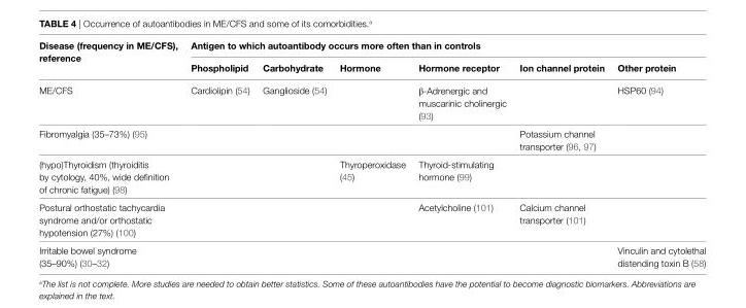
<table><thead><tr><td rowspan="2">disease (frequency in Me/CFs), reference</td><td colspan="6">antigen to which autoantibody occurs more often than in controls</td></tr><tr><td>phospholipid</td><td>Carbohydrate</td><td>Hormone</td><td>Hormone receptor</td><td>ion channel protein</td><td>other protein</td></tr></thead><tbody><tr><td>ME/CFS</td><td>Cardiolipin (54)</td><td>Ganglioside (54)</td><td></td><td>β-Adrenergic and muscarinic cholinergic (93)</td><td></td><td>HSP60 (94)</td></tr><tr><td>Fibromyalgia (35–73%) (95)</td><td></td><td></td><td></td><td></td><td>Potassium channel transporter (96, 97)</td><td></td></tr><tr><td>(hypo)Thyroidism (thyroiditis by cytology, 40%, wide definition of chronic fatigue) (98)</td><td></td><td></td><td>Thyroperoxidase (45)</td><td>Thyroid-stimulating hormone (99)</td><td></td><td></td></tr><tr><td>Postural orthostatic tachycardia syndrome and/or orthostatic hypotension (27%) (100)</td><td></td><td></td><td></td><td>Acetylcholine (101)</td><td>Calcium channel transporter (101)</td><td></td></tr><tr><td>Irritable bowel syndrome (35–90%) (30–32)</td><td></td><td></td><td></td><td></td><td></td><td>Vinculin and cytolethal distending toxin B (58)</td></tr></tbody></table>